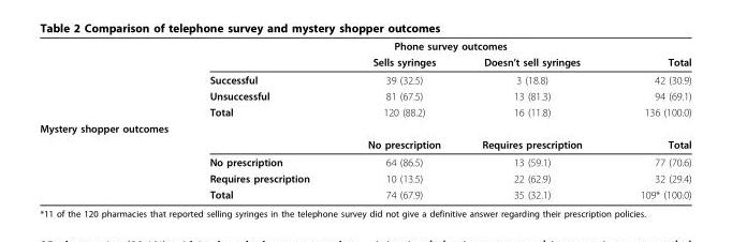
<table><thead><tr><td rowspan="2"></td><td colspan="4">Phone survey outcomes</td></tr><tr><td></td><td>Sells syringes</td><td>Doesn’t sell syringes</td><td>Total</td></tr></thead><tbody><tr><td></td><td>Successful</td><td>39 (32.5)</td><td>3 (18.8)</td><td>42 (30.9)</td></tr><tr><td></td><td>Unsuccessful</td><td>81 (67.5)</td><td>13 (81.3)</td><td>94 (69.1)</td></tr><tr><td></td><td>Total</td><td>120 (88.2)</td><td>16 (11.8)</td><td>136 (100.0)</td></tr><tr><td colspan="5">Mystery shopper outcomes</td></tr><tr><td></td><td></td><td>No prescription</td><td>Requires prescription</td><td>Total</td></tr><tr><td></td><td>No prescription</td><td>64 (86.5)</td><td>13 (59.1)</td><td>77 (70.6)</td></tr><tr><td></td><td>Requires prescription</td><td>10 (13.5)</td><td>22 (62.9)</td><td>32 (29.4)</td></tr><tr><td></td><td>Total</td><td>74 (67.9)</td><td>35 (32.1)</td><td>109* (100.0)</td></tr></tbody></table>